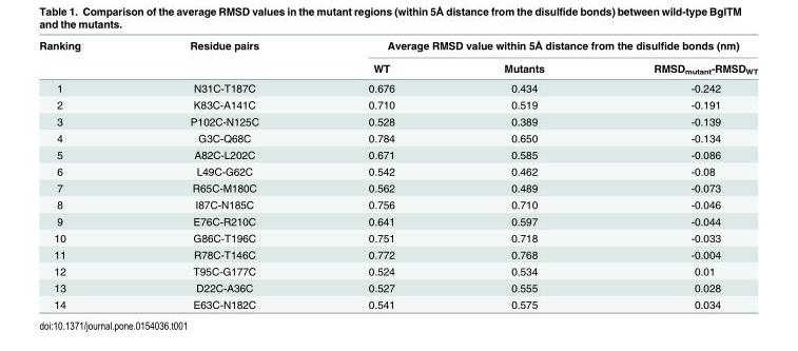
<table><thead><tr><td rowspan="2">Ranking</td><td rowspan="2">Residue pairs</td><td colspan="3">Average RMSD value within 5Å distance from the disulfide bonds (nm)</td></tr><tr><td>WT</td><td>Mutants</td><td>RMSD<sub>mutant</sub>-RMSD<sub>WT</sub></td></tr></thead><tbody><tr><td>1</td><td>N31C-T187C</td><td>0.676</td><td>0.434</td><td>-0.242</td></tr><tr><td>2</td><td>K83C-A141C</td><td>0.710</td><td>0.519</td><td>-0.191</td></tr><tr><td>3</td><td>P102C-N125C</td><td>0.528</td><td>0.389</td><td>-0.139</td></tr><tr><td>4</td><td>G3C-Q68C</td><td>0.784</td><td>0.650</td><td>-0.134</td></tr><tr><td>5</td><td>A82C-L202C</td><td>0.671</td><td>0.585</td><td>-0.086</td></tr><tr><td>6</td><td>L49C-G62C</td><td>0.542</td><td>0.462</td><td>-0.08</td></tr><tr><td>7</td><td>R65C-M180C</td><td>0.562</td><td>0.489</td><td>-0.073</td></tr><tr><td>8</td><td>I87C-N185C</td><td>0.756</td><td>0.710</td><td>-0.046</td></tr><tr><td>9</td><td>E76C-R210C</td><td>0.641</td><td>0.597</td><td>-0.044</td></tr><tr><td>10</td><td>G86C-T196C</td><td>0.751</td><td>0.718</td><td>-0.033</td></tr><tr><td>11</td><td>R78C-T146C</td><td>0.772</td><td>0.768</td><td>-0.004</td></tr><tr><td>12</td><td>T95C-G177C</td><td>0.524</td><td>0.534</td><td>0.01</td></tr><tr><td>13</td><td>D22C-A36C</td><td>0.527</td><td>0.555</td><td>0.028</td></tr><tr><td>14</td><td>E63C-N182C</td><td>0.541</td><td>0.575</td><td>0.034</td></tr></tbody></table>